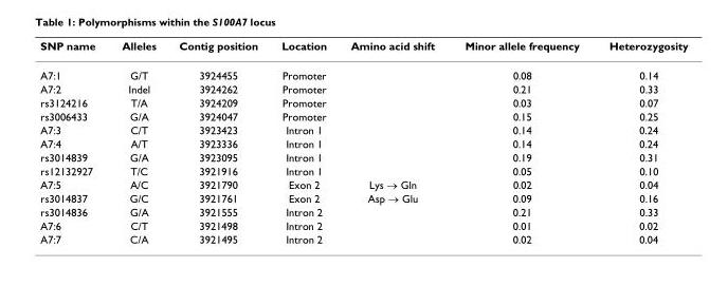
<table><thead><tr><td>SNP name</td><td>Alleles</td><td>Contig position</td><td>Location</td><td>Amino acid shift</td><td>Minor allele frequency</td><td>Heterozygosity</td></tr></thead><tbody><tr><td>A7:1</td><td>G/T</td><td>3924455</td><td>Promoter</td><td></td><td>0.08</td><td>0.14</td></tr><tr><td>A7:2</td><td>Indel</td><td>3924262</td><td>Promoter</td><td></td><td>0.21</td><td>0.33</td></tr><tr><td>rs3124216</td><td>T/A</td><td>3924209</td><td>Promoter</td><td></td><td>0.03</td><td>0.07</td></tr><tr><td>rs3006433</td><td>G/A</td><td>3924047</td><td>Promoter</td><td></td><td>0.15</td><td>0.25</td></tr><tr><td>A7:3</td><td>C/T</td><td>3923423</td><td>Intron 1</td><td></td><td>0.14</td><td>0.24</td></tr><tr><td>A7:4</td><td>A/T</td><td>3923336</td><td>Intron 1</td><td></td><td>0.14</td><td>0.24</td></tr><tr><td>rs3014839</td><td>G/A</td><td>3923095</td><td>Intron 1</td><td></td><td>0.19</td><td>0.31</td></tr><tr><td>rs12132927</td><td>T/C</td><td>3921916</td><td>Intron 1</td><td></td><td>0.05</td><td>0.10</td></tr><tr><td>A7:5</td><td>A/C</td><td>3921790</td><td>Exon 2</td><td>Lys → Gln</td><td>0.02</td><td>0.04</td></tr><tr><td>rs3014837</td><td>G/C</td><td>3921761</td><td>Exon 2</td><td>Asp → Glu</td><td>0.09</td><td>0.16</td></tr><tr><td>rs3014836</td><td>G/A</td><td>3921555</td><td>Intron 2</td><td></td><td>0.21</td><td>0.33</td></tr><tr><td>A7:6</td><td>C/T</td><td>3921498</td><td>Intron 2</td><td></td><td>0.01</td><td>0.02</td></tr><tr><td>A7:7</td><td>C/A</td><td>3921495</td><td>Intron 2</td><td></td><td>0.02</td><td>0.04</td></tr></tbody></table>